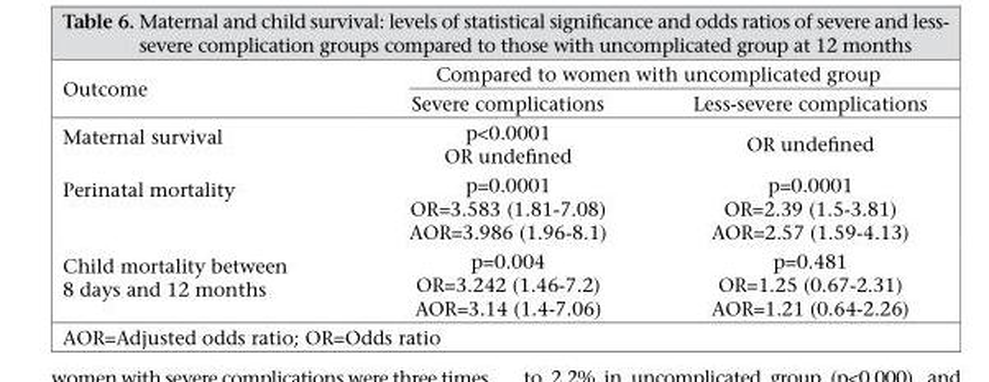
<table><thead><tr><td rowspan="2">Outcome</td><td colspan="2">Compared to women with uncomplicated group</td></tr><tr><td>Severe complications</td><td>Less-severe complications</td></tr></thead><tbody><tr><td>Maternal survival</td><td>p&lt;0.0001 OR undefined</td><td>OR undefined</td></tr><tr><td>Perinatal mortality</td><td>p=0.0001 OR=3.583 (1.81-7.08) AOR=3.986 (1.96-8.1)</td><td>p=0.0001 OR=2.39 (1.5-3.81) AOR=2.57 (1.59-4.13)</td></tr><tr><td>Child mortality between 8 days and 12 months</td><td>p=0.004 OR=3.242 (1.46-7.2) AOR=3.14 (1.4-7.06)</td><td>p=0.481 OR=1.25 (0.67-2.31) AOR=1.21 (0.64-2.26)</td></tr></tbody></table>